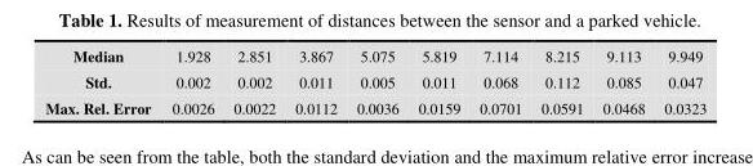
<table><tbody><tr><td>Median</td><td>1.928</td><td>2.851</td><td>3.867</td><td>5.075</td><td>5.819</td><td>7.114</td><td>8.215</td><td>9.113</td><td>9.949</td></tr><tr><td>Std.</td><td>0.002</td><td>0.002</td><td>0.011</td><td>0.005</td><td>0.011</td><td>0.068</td><td>0.112</td><td>0.085</td><td>0.047</td></tr><tr><td>Max. Rel. Error</td><td>0.0026</td><td>0.0022</td><td>0.0112</td><td>0.0036</td><td>0.0159</td><td>0.0701</td><td>0.0591</td><td>0.0468</td><td>0.0323</td></tr></tbody></table>